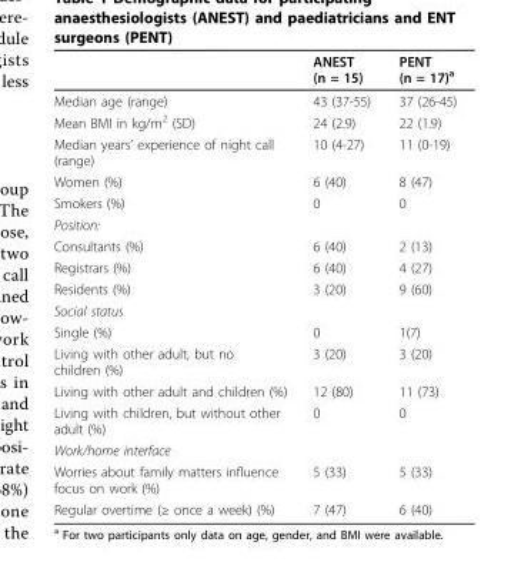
<table><thead><tr><td></td><td>ANEST (n = 15)</td><td>PENT (n = 17)<sup>a</sup></td></tr></thead><tbody><tr><td>Median age (range)</td><td>43 (37-55)</td><td>37 (26-45)</td></tr><tr><td>Mean BMI in kg/m<sup>2</sup> (SD)</td><td>24 (2.9)</td><td>22 (1.9)</td></tr><tr><td>Median years’ experience of night call (range)</td><td>10 (4-27)</td><td>11 (0-19)</td></tr><tr><td>Women (%)</td><td>6 (40)</td><td>8 (47)</td></tr><tr><td>Smokers (%)</td><td>0</td><td>0</td></tr><tr><td colspan="3">Position:</td></tr><tr><td>Consultants (%)</td><td>6 (40)</td><td>2 (13)</td></tr><tr><td>Registrars (%)</td><td>6 (40)</td><td>4 (27)</td></tr><tr><td>Residents (%)</td><td>3 (20)</td><td>9 (60)</td></tr><tr><td colspan="3">Social status</td></tr><tr><td>Single (%)</td><td>0</td><td>1(7)</td></tr><tr><td>Living with other adult, but no children (%)</td><td>3 (20)</td><td>3 (20)</td></tr><tr><td>Living with other adult and children (%)</td><td>12 (80)</td><td>11 (73)</td></tr><tr><td>Living with children, but without other adult (%)</td><td>0</td><td>0</td></tr><tr><td colspan="3">Work/home interface</td></tr><tr><td>Worries about family matters influence focus on work (%)</td><td>5 (33)</td><td>5 (33)</td></tr><tr><td>Regular overtime (≥ once a week) (%)</td><td>7 (47)</td><td>6 (40)</td></tr></tbody></table>